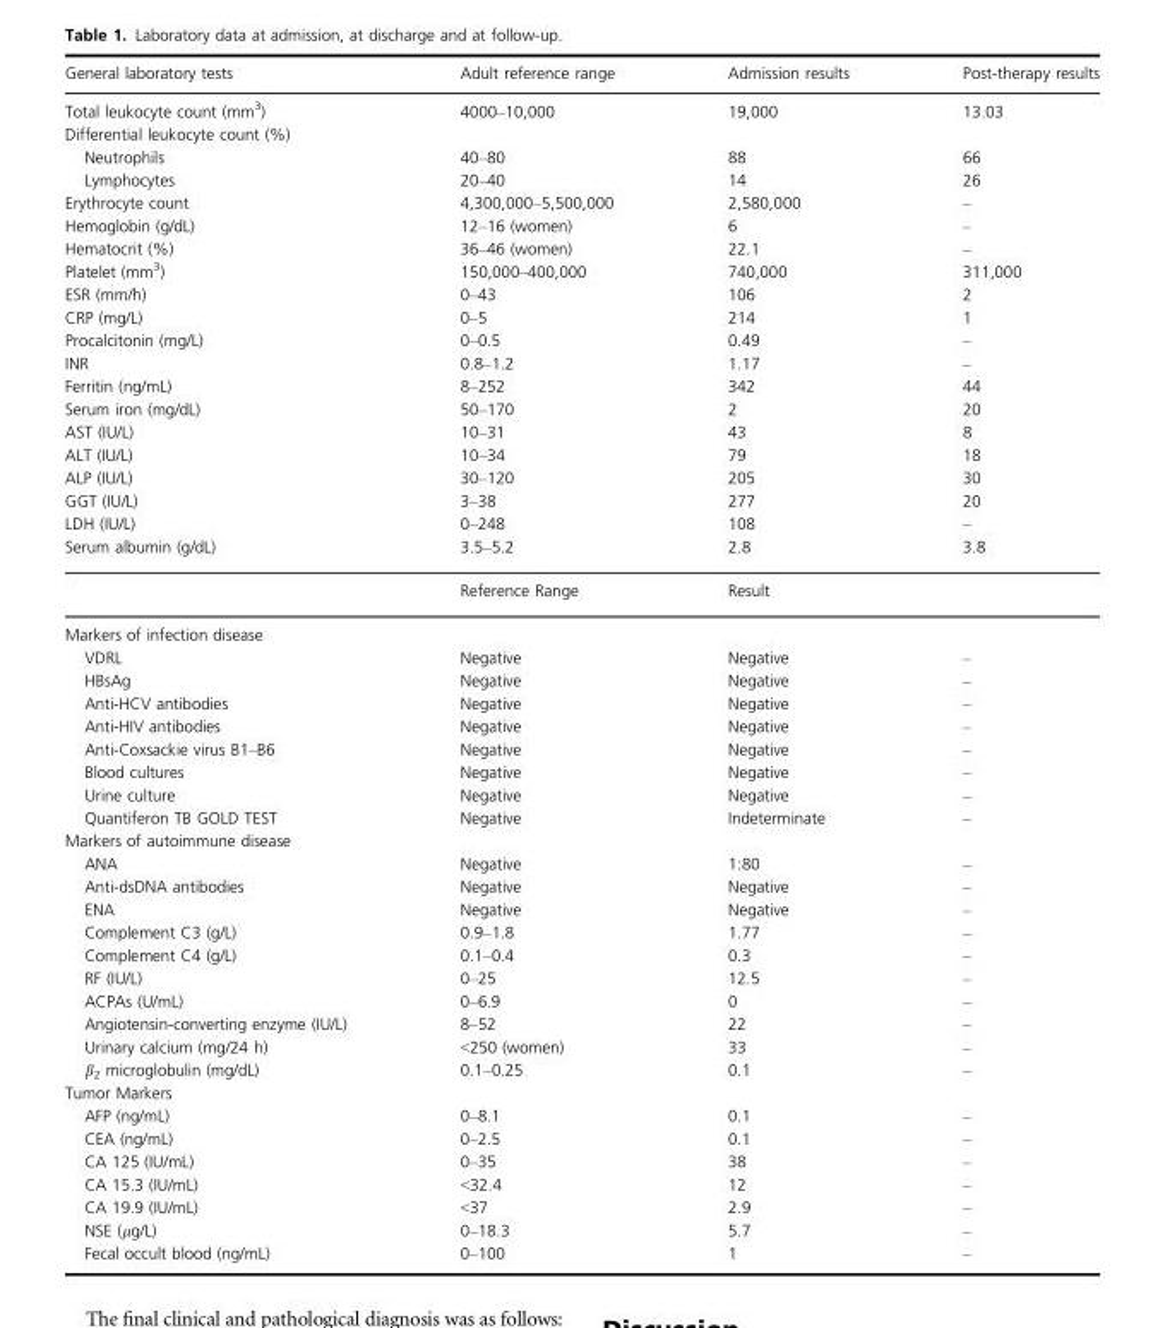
<table><thead><tr><td>General laboratory tests</td><td>Adult reference range</td><td>Admission results</td><td>Post-therapy results</td></tr></thead><tbody><tr><td>Total leukocyte count (mm<sup>3</sup>)</td><td>4000–10,000</td><td>19,000</td><td>13.03</td></tr><tr><td colspan="4">Differential leukocyte count (%)</td></tr><tr><td>Neutrophils</td><td>40–80</td><td>88</td><td>66</td></tr><tr><td>Lymphocytes</td><td>20–40</td><td>14</td><td>26</td></tr><tr><td>Erythrocyte count</td><td>4,300,000–5,500,000</td><td>2,580,000</td><td>–</td></tr><tr><td>Hemoglobin (g/dL)</td><td>12–16 (women)</td><td>6</td><td>–</td></tr><tr><td>Hematocrit (%)</td><td>36–46 (women)</td><td>22.1</td><td>–</td></tr><tr><td>Platelet (mm<sup>3</sup>)</td><td>150,000–400,000</td><td>740,000</td><td>311,000</td></tr><tr><td>ESR (mm/h)</td><td>0–43</td><td>106</td><td>2</td></tr><tr><td>CRP (mg/L)</td><td>0–5</td><td>214</td><td>1</td></tr><tr><td>Procalcitonin (mg/L)</td><td>0–0.5</td><td>0.49</td><td>–</td></tr><tr><td>INR</td><td>0.8–1.2</td><td>1.17</td><td>–</td></tr><tr><td>Ferritin (ng/mL)</td><td>8–252</td><td>342</td><td>44</td></tr><tr><td>Serum iron (mg/dL)</td><td>50–170</td><td>2</td><td>20</td></tr><tr><td>AST (IU/L)</td><td>10–31</td><td>43</td><td>8</td></tr><tr><td>ALT (IU/L)</td><td>10–34</td><td>79</td><td>18</td></tr><tr><td>ALP (IU/L)</td><td>30–120</td><td>205</td><td>30</td></tr><tr><td>GGT (IU/L)</td><td>3–38</td><td>277</td><td>20</td></tr><tr><td>LDH (IU/L)</td><td>0–248</td><td>108</td><td>–</td></tr><tr><td rowspan="2">Serum albumin (g/dL)</td><td>3.5–5.2</td><td>2.8</td><td>3.8</td></tr><tr><td>Reference Range</td><td>Result</td><td></td></tr><tr><td colspan="4">Markers of infection disease</td></tr><tr><td>VDRL</td><td>Negative</td><td>Negative</td><td>–</td></tr><tr><td>HBsAg</td><td>Negative</td><td>Negative</td><td>–</td></tr><tr><td>Anti-HCV antibodies</td><td>Negative</td><td>Negative</td><td>–</td></tr><tr><td>Anti-HIV antibodies</td><td>Negative</td><td>Negative</td><td>–</td></tr><tr><td>Anti-Coxsackie virus B1–B6</td><td>Negative</td><td>Negative</td><td>–</td></tr><tr><td>Blood cultures</td><td>Negative</td><td>Negative</td><td>–</td></tr><tr><td>Urine culture</td><td>Negative</td><td>Negative</td><td>–</td></tr><tr><td>Quantiferon TB GOLD TEST</td><td>Negative</td><td>Indeterminate</td><td>–</td></tr><tr><td colspan="4">Markers of autoimmune disease</td></tr><tr><td>ANA</td><td>Negative</td><td>1:80</td><td>–</td></tr><tr><td>Anti-dsDNA antibodies</td><td>Negative</td><td>Negative</td><td>–</td></tr><tr><td>ENA</td><td>Negative</td><td>Negative</td><td>–</td></tr><tr><td>Complement C3 (g/L)</td><td>0.9–1.8</td><td>1.77</td><td>–</td></tr><tr><td>Complement C4 (g/L)</td><td>0.1–0.4</td><td>0.3</td><td>–</td></tr><tr><td>RF (IU/L)</td><td>0–25</td><td>12.5</td><td>–</td></tr><tr><td>ACPAs (U/mL)</td><td>0–6.9</td><td>0</td><td>–</td></tr><tr><td>Angiotensin-converting enzyme (IU/L)</td><td>8–52</td><td>22</td><td>–</td></tr><tr><td>Urinary calcium (mg/24 h)</td><td>&lt;250 (women)</td><td>33</td><td>–</td></tr><tr><td>β<sub>2</sub> microglobulin (mg/dL)</td><td>0.1–0.25</td><td>0.1</td><td>–</td></tr><tr><td colspan="4">Tumor Markers</td></tr><tr><td>AFP (ng/mL)</td><td>0–8.1</td><td>0.1</td><td>–</td></tr><tr><td>CEA (ng/mL)</td><td>0–2.5</td><td>0.1</td><td>–</td></tr><tr><td>CA 125 (IU/mL)</td><td>0–35</td><td>38</td><td>–</td></tr><tr><td>CA 15.3 (IU/mL)</td><td>&lt;32.4</td><td>12</td><td>–</td></tr><tr><td>CA 19.9 (IU/mL)</td><td>&lt;37</td><td>2.9</td><td>–</td></tr><tr><td>NSE (μg/L)</td><td>0–18.3</td><td>5.7</td><td>–</td></tr><tr><td>Fecal occult blood (ng/mL)</td><td>0–100</td><td>1</td><td>–</td></tr></tbody></table>